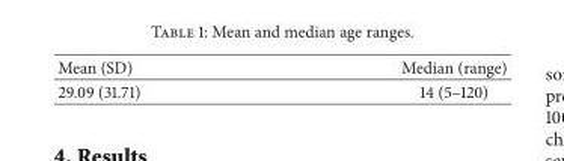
<table><thead><tr><td>Mean (SD)</td><td>Median (range)</td></tr></thead><tbody><tr><td>29.09 (31.71)</td><td>14 (5–120)</td></tr></tbody></table>